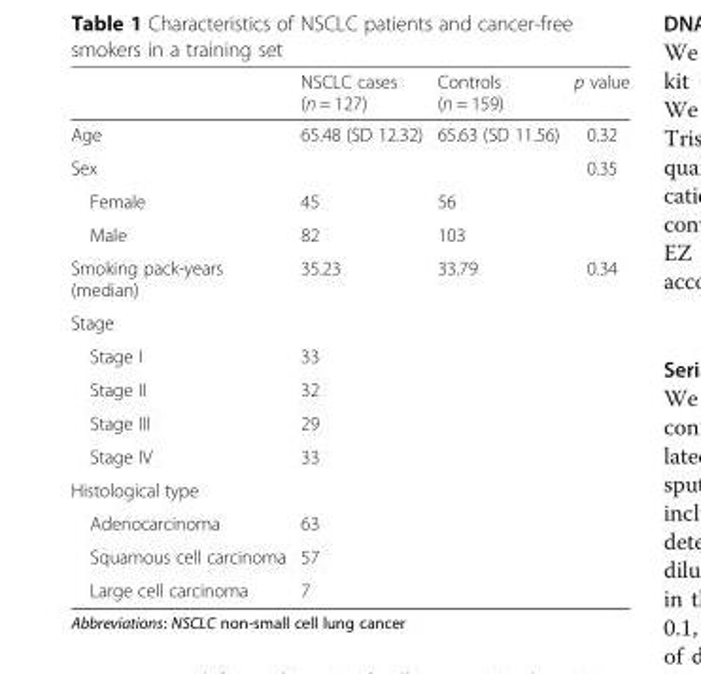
<table><thead><tr><td></td><td>NSCLC cases (n = 127)</td><td>Controls (n = 159)</td><td>p value</td></tr></thead><tbody><tr><td>Age</td><td>65.48 (SD 12.32)</td><td>65.63 (SD 11.56)</td><td>0.32</td></tr><tr><td>Sex</td><td></td><td></td><td>0.35</td></tr><tr><td>Female</td><td>45</td><td>56</td><td></td></tr><tr><td>Male</td><td>82</td><td>103</td><td></td></tr><tr><td>Smoking pack-years (median)</td><td>35.23</td><td>33.79</td><td>0.34</td></tr><tr><td colspan="4">Stage</td></tr><tr><td>Stage I</td><td>33</td><td></td><td></td></tr><tr><td>Stage II</td><td>32</td><td></td><td></td></tr><tr><td>Stage III</td><td>29</td><td></td><td></td></tr><tr><td>Stage IV</td><td>33</td><td></td><td></td></tr><tr><td colspan="4">Histological type</td></tr><tr><td>Adenocarcinoma</td><td>63</td><td></td><td></td></tr><tr><td>Squamous cell carcinoma</td><td>57</td><td></td><td></td></tr><tr><td>Large cell carcinoma</td><td>7</td><td></td><td></td></tr></tbody></table>